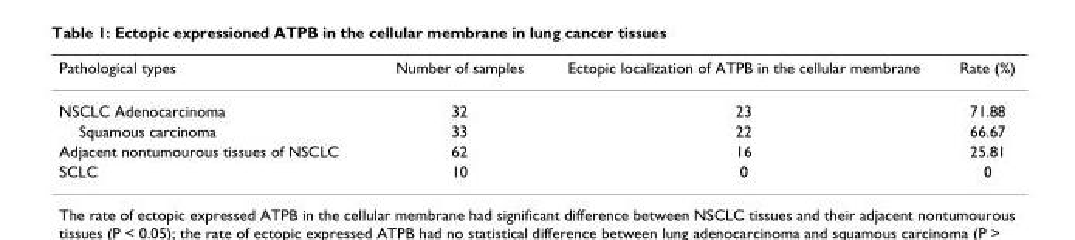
<table><thead><tr><td>Pathological types</td><td>Number of samples</td><td>Ectopic localization of ATPB in the cellular membrane</td><td>Rate (%)</td></tr></thead><tbody><tr><td>NSCLC Adenocarcinoma</td><td>32</td><td>23</td><td>71.88</td></tr><tr><td>Squamous carcinoma</td><td>33</td><td>22</td><td>66.67</td></tr><tr><td>Adjacent nontumourous tissues of NSCLC</td><td>62</td><td>16</td><td>25.81</td></tr><tr><td>SCLC</td><td>10</td><td>0</td><td>0</td></tr></tbody></table>